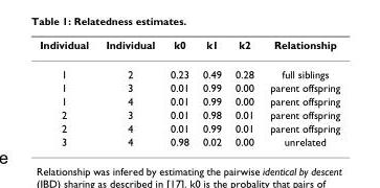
<table><thead><tr><td>Individual</td><td>Individual</td><td>k0</td><td>k1</td><td>k2</td><td>Relationship</td></tr></thead><tbody><tr><td>1</td><td>2</td><td>0.23</td><td>0.49</td><td>0.28</td><td>full siblings</td></tr><tr><td>1</td><td>3</td><td>0.01</td><td>0.99</td><td>0.00</td><td>parent offspring</td></tr><tr><td>1</td><td>4</td><td>0.01</td><td>0.99</td><td>0.00</td><td>parent offspring</td></tr><tr><td>2</td><td>3</td><td>0.01</td><td>0.98</td><td>0.01</td><td>parent offspring</td></tr><tr><td>2</td><td>4</td><td>0.01</td><td>0.99</td><td>0.01</td><td>parent offspring</td></tr><tr><td>3</td><td>4</td><td>0.98</td><td>0.02</td><td>0.00</td><td>unrelated</td></tr></tbody></table>